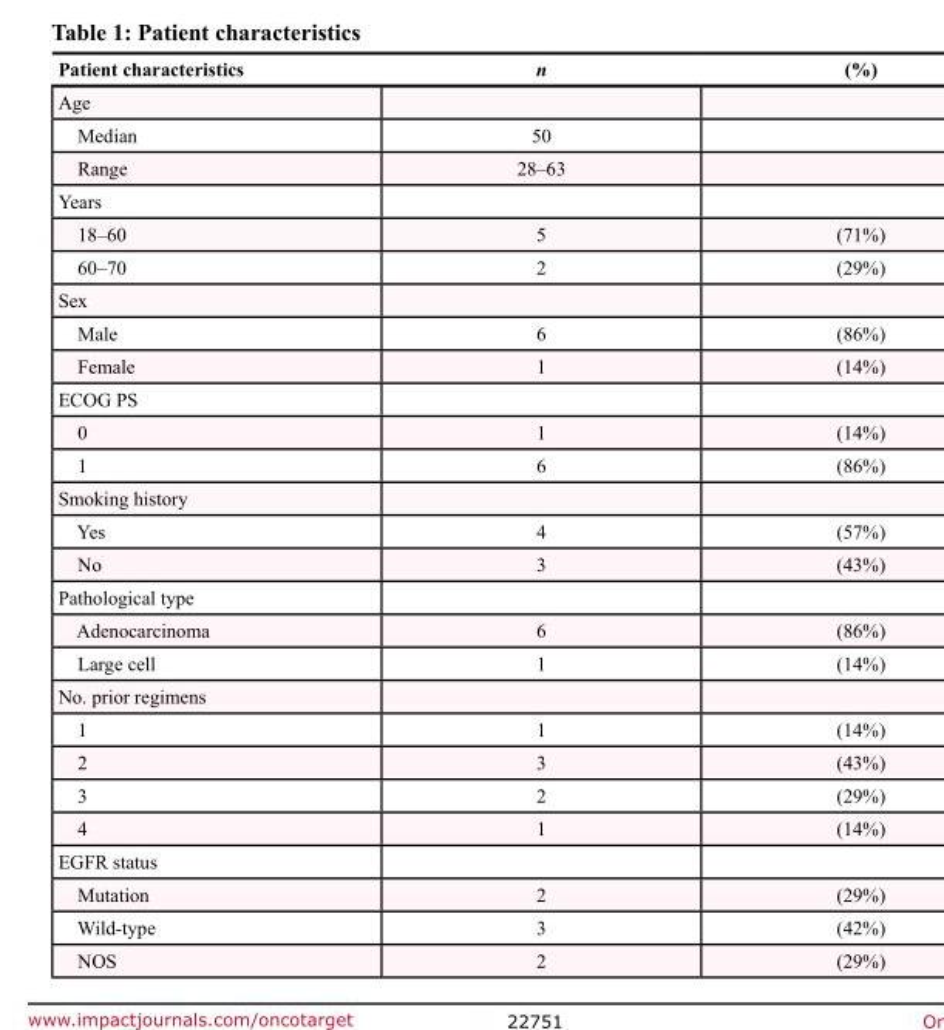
<table><thead><tr><td>Patient characteristics</td><td>n</td><td>(%)</td></tr></thead><tbody><tr><td colspan="3">Age</td></tr><tr><td>Median</td><td>50</td><td></td></tr><tr><td>Range</td><td>28–63</td><td></td></tr><tr><td colspan="3">Years</td></tr><tr><td>18–60</td><td>5</td><td>(71%)</td></tr><tr><td>60–70</td><td>2</td><td>(29%)</td></tr><tr><td colspan="3">Sex</td></tr><tr><td>Male</td><td>6</td><td>(86%)</td></tr><tr><td>Female</td><td>1</td><td>(14%)</td></tr><tr><td colspan="3">ECOG PS</td></tr><tr><td>0</td><td>1</td><td>(14%)</td></tr><tr><td>1</td><td>6</td><td>(86%)</td></tr><tr><td colspan="3">Smoking history</td></tr><tr><td>Yes</td><td>4</td><td>(57%)</td></tr><tr><td>No</td><td>3</td><td>(43%)</td></tr><tr><td colspan="3">Pathological type</td></tr><tr><td>Adenocarcinoma</td><td>6</td><td>(86%)</td></tr><tr><td>Large cell</td><td>1</td><td>(14%)</td></tr><tr><td colspan="3">No. prior regimens</td></tr><tr><td>1</td><td>1</td><td>(14%)</td></tr><tr><td>2</td><td>3</td><td>(43%)</td></tr><tr><td>3</td><td>2</td><td>(29%)</td></tr><tr><td>4</td><td>1</td><td>(14%)</td></tr><tr><td colspan="3">EGFR status</td></tr><tr><td>Mutation</td><td>2</td><td>(29%)</td></tr><tr><td>Wild-type</td><td>3</td><td>(42%)</td></tr><tr><td>NOS</td><td>2</td><td>(29%)</td></tr></tbody></table>